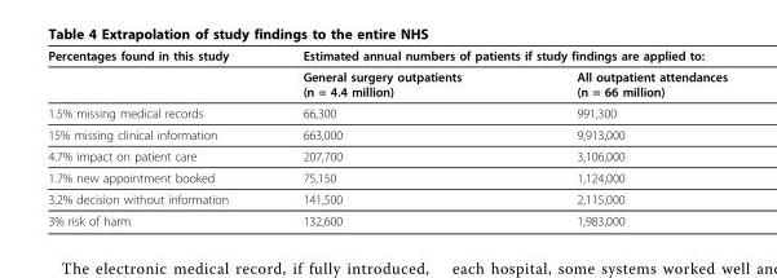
<table><thead><tr><td rowspan="2">Percentages found in this study</td><td colspan="2">Estimated annual numbers of patients if study findings are applied to:</td></tr><tr><td>General surgery outpatients (n = 4.4 million)</td><td>All outpatient attendances (n = 66 million)</td></tr></thead><tbody><tr><td>1.5% missing medical records</td><td>66,300</td><td>991,300</td></tr><tr><td>15% missing clinical information</td><td>663,000</td><td>9,913,000</td></tr><tr><td>4.7% impact on patient care</td><td>207,700</td><td>3,106,000</td></tr><tr><td>1.7% new appointment booked</td><td>75,150</td><td>1,124,000</td></tr><tr><td>3.2% decision without information</td><td>141,500</td><td>2,115,000</td></tr><tr><td>3% risk of harm</td><td>132,600</td><td>1,983,000</td></tr></tbody></table>